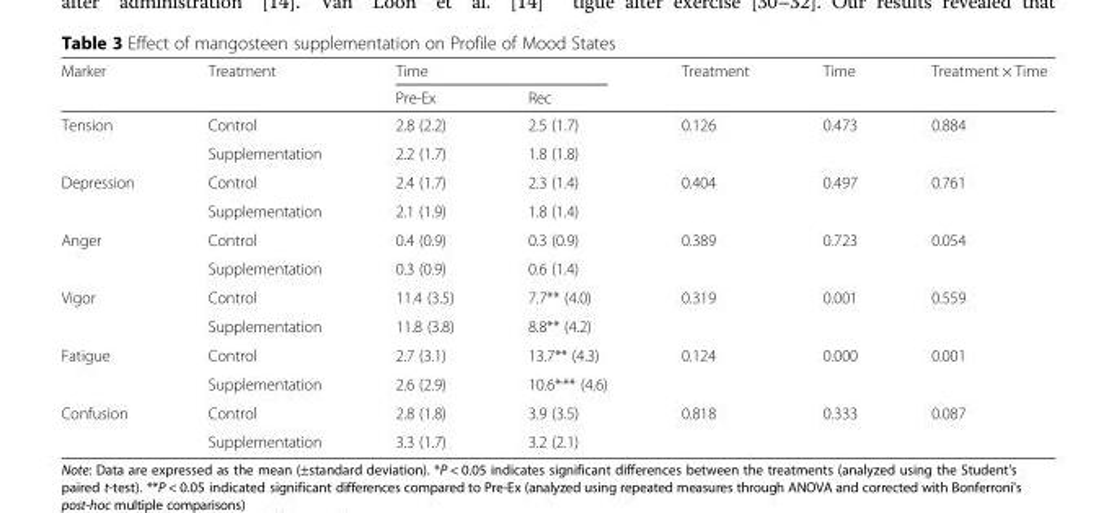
<table><thead><tr><td rowspan="2">Marker</td><td rowspan="2">Treatment</td><td colspan="2">Time</td><td rowspan="2">Treatment</td><td rowspan="2">Time</td><td rowspan="2">Treatment × Time</td></tr><tr><td>Pre-Ex</td><td>Rec</td></tr></thead><tbody><tr><td rowspan="2">Tension</td><td>Control</td><td>2.8 (2.2)</td><td>2.5 (1.7)</td><td rowspan="2">0.126</td><td rowspan="2">0.473</td><td rowspan="2">0.884</td></tr><tr><td>Supplementation</td><td>2.2 (1.7)</td><td>1.8 (1.8)</td></tr><tr><td rowspan="2">Depression</td><td>Control</td><td>2.4 (1.7)</td><td>2.3 (1.4)</td><td rowspan="2">0.404</td><td rowspan="2">0.497</td><td rowspan="2">0.761</td></tr><tr><td>Supplementation</td><td>2.1 (1.9)</td><td>1.8 (1.4)</td></tr><tr><td rowspan="2">Anger</td><td>Control</td><td>0.4 (0.9)</td><td>0.3 (0.9)</td><td rowspan="2">0.389</td><td rowspan="2">0.723</td><td rowspan="2">0.054</td></tr><tr><td>Supplementation</td><td>0.3 (0.9)</td><td>0.6 (1.4)</td></tr><tr><td rowspan="2">Vigor</td><td>Control</td><td>11.4 (3.5)</td><td>7.7** (4.0)</td><td rowspan="2">0.319</td><td rowspan="2">0.001</td><td rowspan="2">0.559</td></tr><tr><td>Supplementation</td><td>11.8 (3.8)</td><td>8.8** (4.2)</td></tr><tr><td rowspan="2">Fatigue</td><td>Control</td><td>2.7 (3.1)</td><td>13.7** (4.3)</td><td rowspan="2">0.124</td><td rowspan="2">0.000</td><td rowspan="2">0.001</td></tr><tr><td>Supplementation</td><td>2.6 (2.9)</td><td>10.6*<sup>,</sup>** (4.6)</td></tr><tr><td rowspan="2">Confusion</td><td>Control</td><td>2.8 (1.8)</td><td>3.9 (3.5)</td><td rowspan="2">0.818</td><td rowspan="2">0.333</td><td rowspan="2">0.087</td></tr><tr><td>Supplementation</td><td>3.3 (1.7)</td><td>3.2 (2.1)</td></tr></tbody></table>